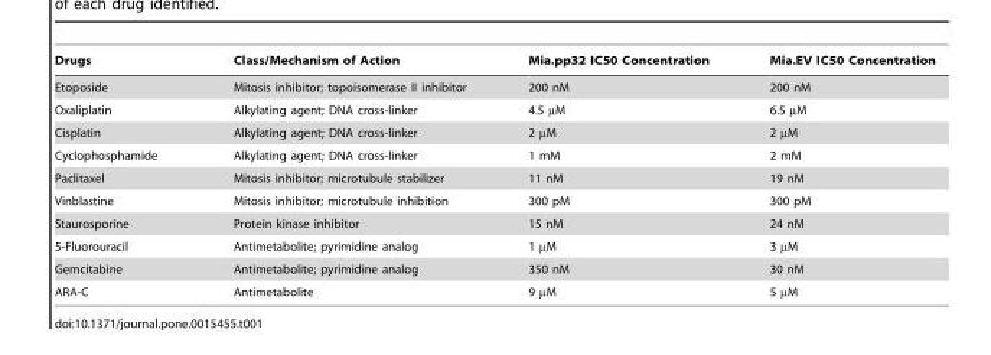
<table><thead><tr><td>Drugs</td><td>Class/Mechanism of Action</td><td>Mia.pp32 IC50 Concentration</td><td>Mia.EV IC50 Concentration</td></tr></thead><tbody><tr><td>Etoposide</td><td>Mitosis inhibitor; topoisomerase II inhibitor</td><td>200 nM</td><td>200 nM</td></tr><tr><td>Oxaliplatin</td><td>Alkylating agent; DNA cross-linker</td><td>4.5 µM</td><td>6.5 µM</td></tr><tr><td>Cisplatin</td><td>Alkylating agent; DNA cross-linker</td><td>2 µM</td><td>2 µM</td></tr><tr><td>Cyclophosphamide</td><td>Alkylating agent; DNA cross-linker</td><td>1 mM</td><td>2 mM</td></tr><tr><td>Paclitaxel</td><td>Mitosis inhibitor; microtubule stabilizer</td><td>11 nM</td><td>19 nM</td></tr><tr><td>Vinblastine</td><td>Mitosis inhibitor; microtubule inhibition</td><td>300 pM</td><td>300 pM</td></tr><tr><td>Staurosporine</td><td>Protein kinase inhibitor</td><td>15 nM</td><td>24 nM</td></tr><tr><td>5-Fluorouracil</td><td>Antimetabolite; pyrimidine analog</td><td>1 µM</td><td>3 µM</td></tr><tr><td>Gemcitabine</td><td>Antimetabolite; pyrimidine analog</td><td>350 nM</td><td>30 nM</td></tr><tr><td>ARA-C</td><td>Antimetabolite</td><td>9 µM</td><td>5 µM</td></tr></tbody></table>